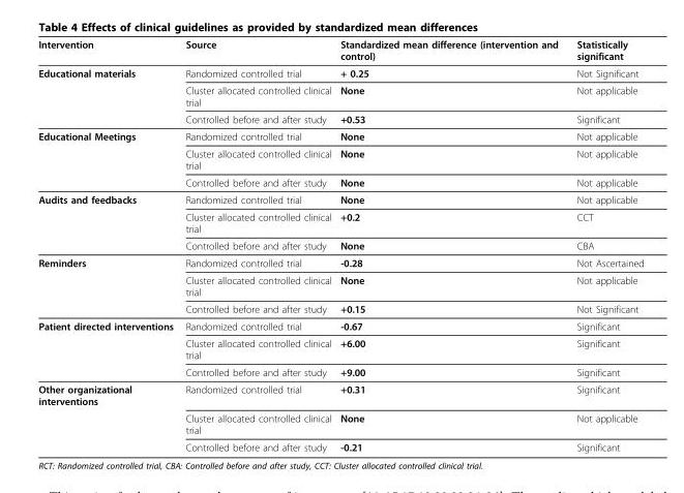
<table><thead><tr><td>Intervention</td><td>Source</td><td>Standardized mean difference (intervention and control)</td><td>Statistically significant</td></tr></thead><tbody><tr><td rowspan="3">Educational materials</td><td>Randomized controlled trial</td><td>+ 0.25</td><td>Not Significant</td></tr><tr><td>Cluster allocated controlled clinical trial</td><td>None</td><td>Not applicable</td></tr><tr><td>Controlled before and after study</td><td>+0.53</td><td>Significant</td></tr><tr><td rowspan="3">Educational Meetings</td><td>Randomized controlled trial</td><td>None</td><td>Not applicable</td></tr><tr><td>Cluster allocated controlled clinical trial</td><td>None</td><td>Not applicable</td></tr><tr><td>Controlled before and after study</td><td>None</td><td>Not applicable</td></tr><tr><td rowspan="3">Audits and feedbacks</td><td>Randomized controlled trial</td><td>None</td><td>Not applicable</td></tr><tr><td>Cluster allocated controlled clinical trial</td><td>+0.2</td><td>CCT</td></tr><tr><td>Controlled before and after study</td><td>None</td><td>CBA</td></tr><tr><td rowspan="3">Reminders</td><td>Randomized controlled trial</td><td>-0.28</td><td>Not Ascertained</td></tr><tr><td>Cluster allocated controlled clinical trial</td><td>None</td><td>Not applicable</td></tr><tr><td>Controlled before and after study</td><td>+0.15</td><td>Not Significant</td></tr><tr><td rowspan="3">Patient directed interventions</td><td>Randomized controlled trial</td><td>-0.67</td><td>Significant</td></tr><tr><td>Cluster allocated controlled clinical trial</td><td>+6.00</td><td>Significant</td></tr><tr><td>Controlled before and after study</td><td>+9.00</td><td>Significant</td></tr><tr><td rowspan="3">Other organizational interventions</td><td>Randomized controlled trial</td><td>+0.31</td><td>Significant</td></tr><tr><td>Cluster allocated controlled clinical trial</td><td>None</td><td>Not applicable</td></tr><tr><td>Controlled before and after study</td><td>-0.21</td><td>Significant</td></tr></tbody></table>